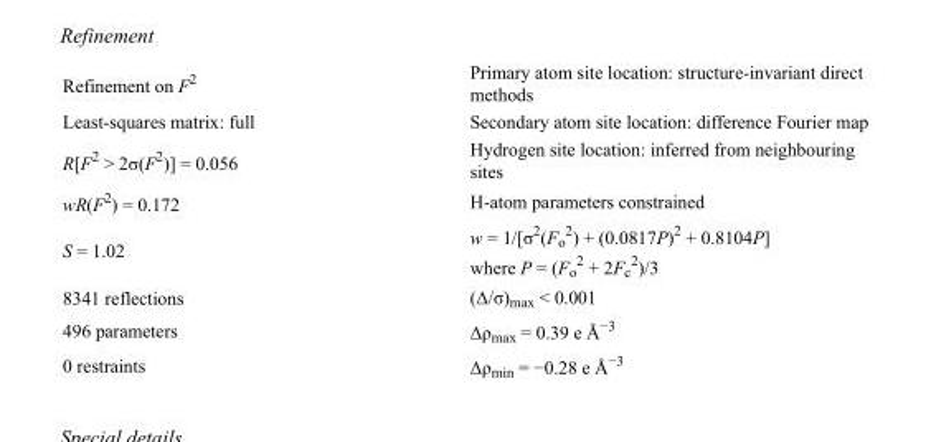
<table><tbody><tr><td>Refinement on F<sup>2</sup></td><td>Primary atom site location: structure-invariant direct methods</td></tr><tr><td>Least-squares matrix: full</td><td>Secondary atom site location: difference Fourier map</td></tr><tr><td>R[F<sup>2</sup> &gt; 2σ(F<sup>2</sup>)] = 0.056</td><td>Hydrogen site location: inferred from neighbouring sites</td></tr><tr><td>wR(F<sup>2</sup>) = 0.172</td><td>H-atom parameters constrained</td></tr><tr><td>S = 1.02</td><td>w = 1/[σ<sup>2</sup>(F<sub>o</sub> <sup>2</sup>) + (0.0817P)<sup>2</sup> + 0.8104P] where P = (F<sub>o</sub> <sup>2</sup> + 2F<sub>c</sub> <sup>2</sup>)/3</td></tr><tr><td>8341 reflections</td><td>(Δ/σ)<sub>max</sub> &lt; 0.001</td></tr><tr><td>496 parameters</td><td>Δρ<sub>max</sub> = 0.39 e Å<sup>−3</sup></td></tr><tr><td>0 restraints</td><td>Δρ<sub>min</sub> = −0.28 e Å<sup>−3</sup></td></tr></tbody></table>